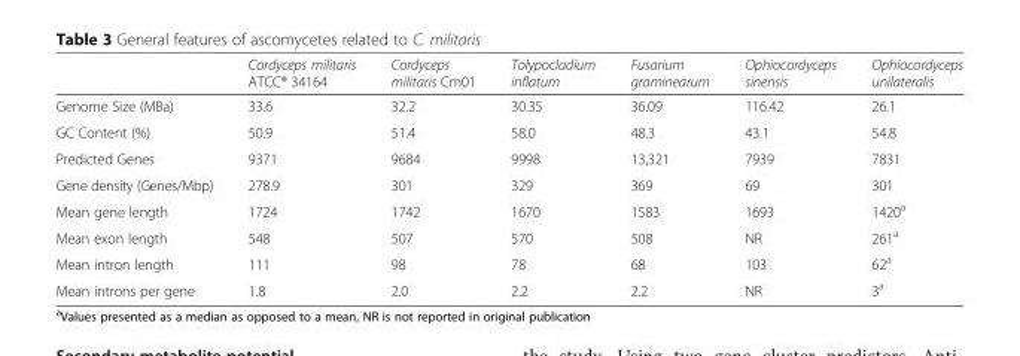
<table><thead><tr><td></td><td>Cordyceps militaris ATCC® 34164</td><td>Cordyceps militaris Cm01</td><td>Tolypocladium inflatum</td><td>Fusarium graminearum</td><td>Ophiocordyceps sinensis</td><td>Ophiocordyceps unilateralis</td></tr></thead><tbody><tr><td>Genome Size (MBa)</td><td>33.6</td><td>32.2</td><td>30.35</td><td>36.09</td><td>116.42</td><td>26.1</td></tr><tr><td>GC Content (%)</td><td>50.9</td><td>51.4</td><td>58.0</td><td>48.3</td><td>43.1</td><td>54.8</td></tr><tr><td>Predicted Genes</td><td>9371</td><td>9684</td><td>9998</td><td>13,321</td><td>7939</td><td>7831</td></tr><tr><td>Gene density (Genes/Mbp)</td><td>278.9</td><td>301</td><td>329</td><td>369</td><td>69</td><td>301</td></tr><tr><td>Mean gene length</td><td>1724</td><td>1742</td><td>1670</td><td>1583</td><td>1693</td><td>1420<sup>a</sup></td></tr><tr><td>Mean exon length</td><td>548</td><td>507</td><td>570</td><td>508</td><td>NR</td><td>261<sup>a</sup></td></tr><tr><td>Mean intron length</td><td>111</td><td>98</td><td>78</td><td>68</td><td>103</td><td>62<sup>a</sup></td></tr><tr><td>Mean introns per gene</td><td>1.8</td><td>2.0</td><td>2.2</td><td>2.2</td><td>NR</td><td>3<sup>a</sup></td></tr></tbody></table>